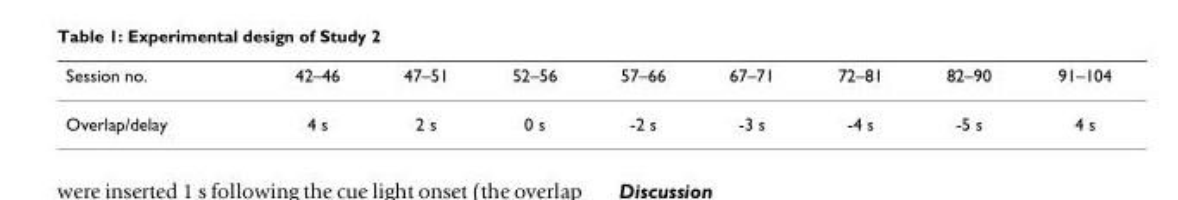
<table><thead><tr><td>Session no.</td><td>42–46</td><td>47–51</td><td>52–56</td><td>57–66</td><td>67–71</td><td>72–81</td><td>82–90</td><td>91–104</td></tr></thead><tbody><tr><td>Overlap/delay</td><td>4 s</td><td>2 s</td><td>0 s</td><td>-2 s</td><td>-3 s</td><td>-4 s</td><td>-5 s</td><td>4 s</td></tr></tbody></table>